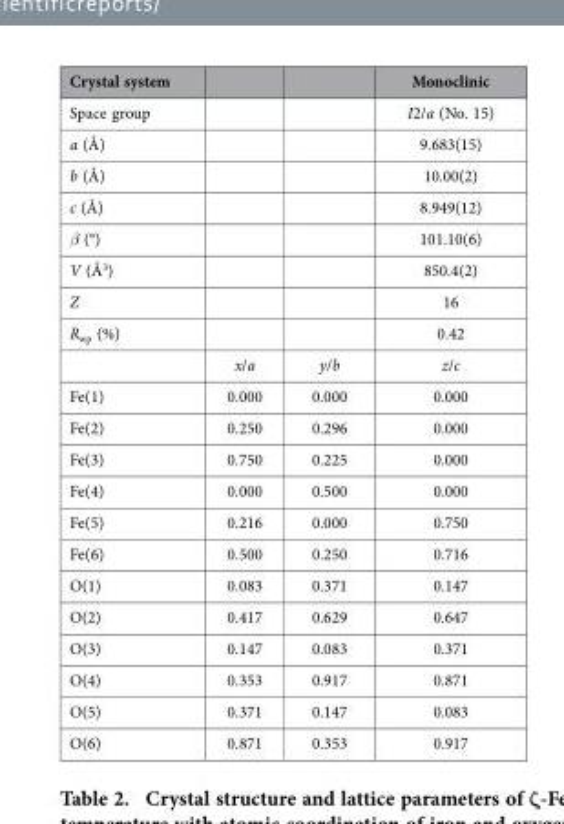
<table><thead><tr><td>Crystal system</td><td></td><td></td><td>Monoclinic</td></tr></thead><tbody><tr><td>Space group</td><td></td><td></td><td>I2/a (No. 15)</td></tr><tr><td>a (Å)</td><td></td><td></td><td>9.683(15)</td></tr><tr><td>b (Å)</td><td></td><td></td><td>10.00(2)</td></tr><tr><td>c (Å)</td><td></td><td></td><td>8.949(12)</td></tr><tr><td>β (°)</td><td></td><td></td><td>101.10(6)</td></tr><tr><td>V (Å<sup>3</sup>)</td><td></td><td></td><td>850.4(2)</td></tr><tr><td>Z</td><td></td><td></td><td>16</td></tr><tr><td rowspan="2">R<sub>wp</sub> (%)</td><td></td><td></td><td>0.42</td></tr><tr><td>x/a</td><td>y/b</td><td>z/c</td></tr><tr><td>Fe(1)</td><td>0.000</td><td>0.000</td><td>0.000</td></tr><tr><td>Fe(2)</td><td>0.250</td><td>0.296</td><td>0.000</td></tr><tr><td>Fe(3)</td><td>0.750</td><td>0.225</td><td>0.000</td></tr><tr><td>Fe(4)</td><td>0.000</td><td>0.500</td><td>0.000</td></tr><tr><td>Fe(5)</td><td>0.216</td><td>0.000</td><td>0.750</td></tr><tr><td>Fe(6)</td><td>0.500</td><td>0.250</td><td>0.716</td></tr><tr><td>O(1)</td><td>0.083</td><td>0.371</td><td>0.147</td></tr><tr><td>O(2)</td><td>0.417</td><td>0.629</td><td>0.647</td></tr><tr><td>O(3)</td><td>0.147</td><td>0.083</td><td>0.371</td></tr><tr><td>O(4)</td><td>0.353</td><td>0.917</td><td>0.871</td></tr><tr><td>O(5)</td><td>0.371</td><td>0.147</td><td>0.083</td></tr><tr><td>O(6)</td><td>0.871</td><td>0.353</td><td>0.917</td></tr></tbody></table>